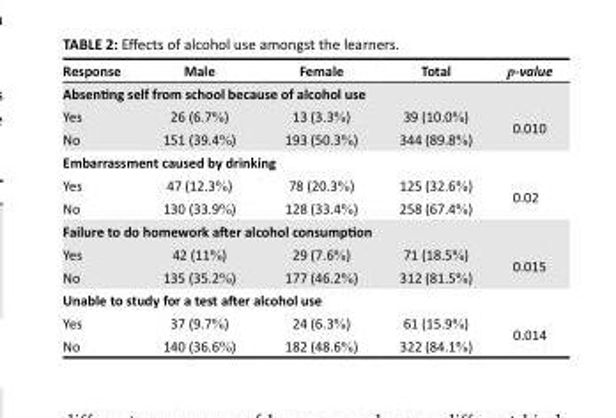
<table><thead><tr><td>Response</td><td>Male</td><td>Female</td><td>Total</td><td>p-value</td></tr></thead><tbody><tr><td colspan="5">Absenting self from school because of alcohol use</td></tr><tr><td>Yes</td><td>26 (6.7%)</td><td>13 (3.3%)</td><td>39 (10.0%)</td><td rowspan="2">0.010</td></tr><tr><td>No</td><td>151 (39.4%)</td><td>193 (50.3%)</td><td>344 (89.8%)</td></tr><tr><td colspan="5">Embarrassment caused by drinking</td></tr><tr><td>Yes</td><td>47 (12.3%)</td><td>78 (20.3%)</td><td>125 (32.6%)</td><td rowspan="2">0.02</td></tr><tr><td>No</td><td>130 (33.9%)</td><td>128 (33.4%)</td><td>258 (67.4%)</td></tr><tr><td colspan="5">Failure to do homework after alcohol consumption</td></tr><tr><td>Yes</td><td>42 (11%)</td><td>29 (7.6%)</td><td>71 (18.5%)</td><td rowspan="2">0.015</td></tr><tr><td>No</td><td>135 (35.2%)</td><td>177 (46.2%)</td><td>312 (81.5%)</td></tr><tr><td colspan="5">Unable to study for a test after alcohol use</td></tr><tr><td>Yes</td><td>37 (9.7%)</td><td>24 (6.3%)</td><td>61 (15.9%)</td><td rowspan="2">0.014</td></tr><tr><td>No</td><td>140 (36.6%)</td><td>182 (48.6%)</td><td>322 (84.1%)</td></tr></tbody></table>